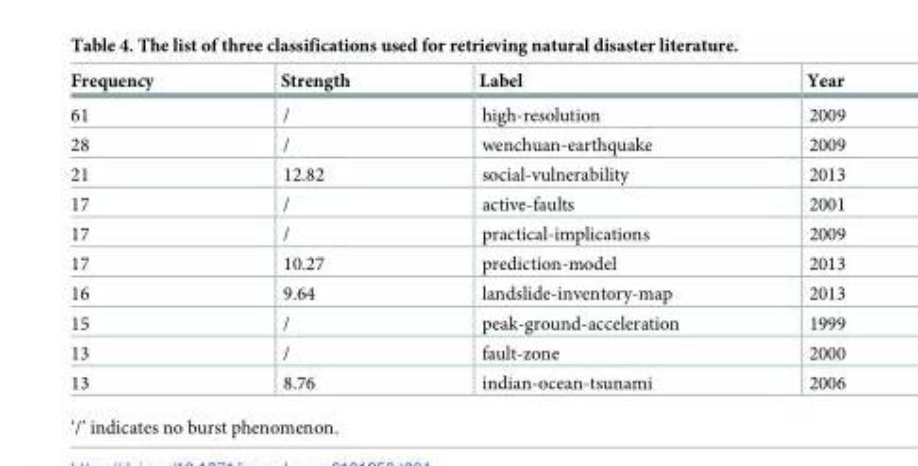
<table><thead><tr><td>Frequency</td><td>Strength</td><td>Label</td><td>Year</td></tr></thead><tbody><tr><td>61</td><td>/</td><td>high-resolution</td><td>2009</td></tr><tr><td>28</td><td>/</td><td>wenchuan-earthquake</td><td>2009</td></tr><tr><td>21</td><td>12.82</td><td>social-vulnerability</td><td>2013</td></tr><tr><td>17</td><td>/</td><td>active-faults</td><td>2001</td></tr><tr><td>17</td><td>/</td><td>practical-implications</td><td>2009</td></tr><tr><td>17</td><td>10.27</td><td>prediction-model</td><td>2013</td></tr><tr><td>16</td><td>9.64</td><td>landslide-inventory-map</td><td>2013</td></tr><tr><td>15</td><td>/</td><td>peak-ground-acceleration</td><td>1999</td></tr><tr><td>13</td><td>/</td><td>fault-zone</td><td>2000</td></tr><tr><td>13</td><td>8.76</td><td>indian-ocean-tsunami</td><td>2006</td></tr></tbody></table>